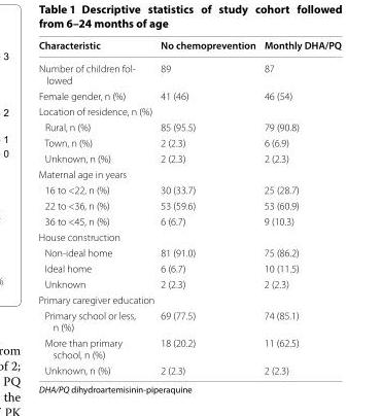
<table><thead><tr><td>Characteristic</td><td>No chemoprevention</td><td>Monthly DHA/PQ</td></tr></thead><tbody><tr><td>Number of children fol- lowed</td><td>89</td><td>87</td></tr><tr><td>Female gender, n (%)</td><td>41 (46)</td><td>46 (54)</td></tr><tr><td colspan="3">Location of residence, n (%)</td></tr><tr><td>Rural, n (%)</td><td>85 (95.5)</td><td>79 (90.8)</td></tr><tr><td>Town, n (%)</td><td>2 (2.3)</td><td>6 (6.9)</td></tr><tr><td>Unknown, n (%)</td><td>2 (2.3)</td><td>2 (2.3)</td></tr><tr><td colspan="3">Maternal age in years</td></tr><tr><td>16 to &lt;22, n (%)</td><td>30 (33.7)</td><td>25 (28.7)</td></tr><tr><td>22 to &lt;36, n (%)</td><td>53 (59.6)</td><td>53 (60.9)</td></tr><tr><td>36 to &lt;45, n (%)</td><td>6 (6.7)</td><td>9 (10.3)</td></tr><tr><td colspan="3">House construction</td></tr><tr><td>Non-ideal home</td><td>81 (91.0)</td><td>75 (86.2)</td></tr><tr><td>Ideal home</td><td>6 (6.7)</td><td>10 (11.5)</td></tr><tr><td>Unknown</td><td>2 (2.3)</td><td>2 (2.3)</td></tr><tr><td colspan="3">Primary caregiver education</td></tr><tr><td>Primary school or less, n (%)</td><td>69 (77.5)</td><td>74 (85.1)</td></tr><tr><td>More than primary school, n (%)</td><td>18 (20.2)</td><td>11 (62.5)</td></tr><tr><td>Unknown, n (%)</td><td>2 (2.3)</td><td>2 (2.3)</td></tr></tbody></table>